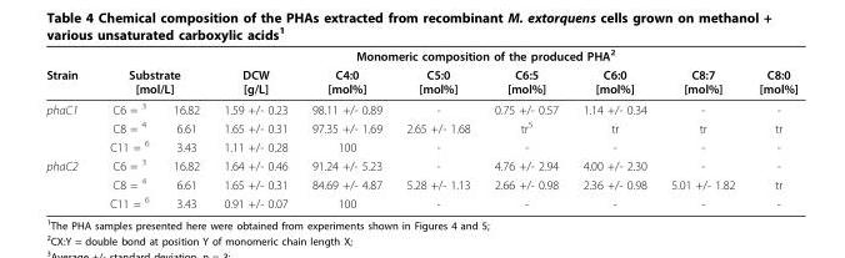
<table><thead><tr><td rowspan="3">Strain phaC1</td><td></td><td colspan="8">Monomeric composition of the produced PHA<sup>2</sup></td></tr><tr><td colspan="2">Substrate [mol/L]</td><td rowspan="2">DCW [g/L] 1.59 +/- 0.23</td><td rowspan="2">C4:0 [mol%] 98.11 +/- 0.89</td><td rowspan="2">C5:0 [mol%] -</td><td rowspan="2">C6:5 [mol%] 0.75 +/- 0.57</td><td rowspan="2">C6:0 [mol%] 1.14 +/- 0.34</td><td rowspan="2">C8:7 [mol%] -</td><td rowspan="2">C8:0 [mol%] -</td></tr><tr><td>C6 = <sup>3</sup></td><td>16.82</td></tr></thead><tbody><tr><td></td><td>C8 = <sup>4</sup></td><td>6.61</td><td>1.65 +/- 0.31</td><td>97.35 +/- 1.69</td><td>2.65 +/- 1.68</td><td>tr5</td><td>tr</td><td>tr</td><td>tr</td></tr><tr><td></td><td>C11 = <sup>6</sup></td><td>3.43</td><td>1.11 +/- 0.28</td><td>100</td><td>-</td><td>-</td><td>-</td><td>-</td><td>-</td></tr><tr><td rowspan="3">phaC2</td><td>C6 = <sup>3</sup></td><td>16.82</td><td>1.64 +/- 0.46</td><td>91.24 +/- 5.23</td><td>-</td><td>4.76 +/- 2.94</td><td>4.00 +/- 2.30</td><td>-</td><td>-</td></tr><tr><td>C8 = <sup>4</sup></td><td>6.61</td><td>1.65 +/- 0.31</td><td>84.69 +/- 4.87</td><td>5.28 +/- 1.13</td><td>2.66 +/- 0.98</td><td>2.36 +/- 0.98</td><td>5.01 +/- 1.82</td><td>tr</td></tr><tr><td>C11 = <sup>6</sup></td><td>3.43</td><td>0.91 +/- 0.07</td><td>100</td><td>-</td><td>-</td><td>-</td><td>-</td><td>-</td></tr></tbody></table>